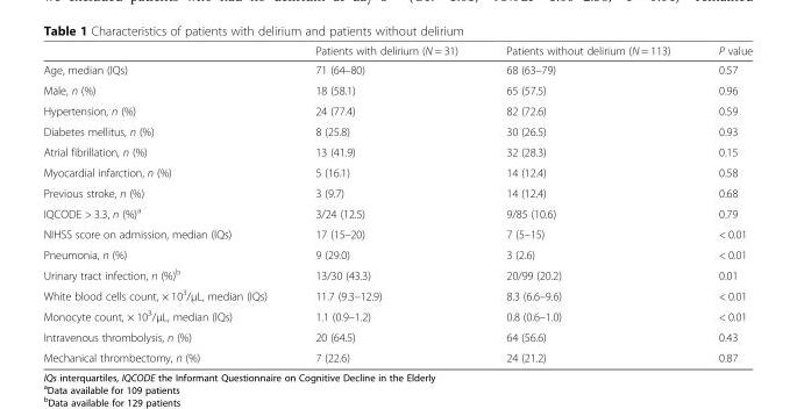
<table><thead><tr><td></td><td>Patients with delirium (N = 31)</td><td>Patients without delirium (N = 113)</td><td>P value</td></tr></thead><tbody><tr><td>Age, median (IQs)</td><td>71 (64–80)</td><td>68 (63–79)</td><td>0.57</td></tr><tr><td>Male, n (%)</td><td>18 (58.1)</td><td>65 (57.5)</td><td>0.96</td></tr><tr><td>Hypertension, n (%)</td><td>24 (77.4)</td><td>82 (72.6)</td><td>0.59</td></tr><tr><td>Diabetes mellitus, n (%)</td><td>8 (25.8)</td><td>30 (26.5)</td><td>0.93</td></tr><tr><td>Atrial fibrillation, n (%)</td><td>13 (41.9)</td><td>32 (28.3)</td><td>0.15</td></tr><tr><td>Myocardial infarction, n (%)</td><td>5 (16.1)</td><td>14 (12.4)</td><td>0.58</td></tr><tr><td>Previous stroke, n (%)</td><td>3 (9.7)</td><td>14 (12.4)</td><td>0.68</td></tr><tr><td>IQCODE &gt; 3.3, n (%)<sup>a</sup></td><td>3/24 (12.5)</td><td>9/85 (10.6)</td><td>0.79</td></tr><tr><td>NIHSS score on admission, median (IQs)</td><td>17 (15–20)</td><td>7 (5–15)</td><td>&lt; 0.01</td></tr><tr><td>Pneumonia, n (%)</td><td>9 (29.0)</td><td>3 (2.6)</td><td>&lt; 0.01</td></tr><tr><td>Urinary tract infection, n (%)<sup>b</sup></td><td>13/30 (43.3)</td><td>20/99 (20.2)</td><td>0.01</td></tr><tr><td>White blood cells count, × 10<sup>3</sup>/μL, median (IQs)</td><td>11.7 (9.3–12.9)</td><td>8.3 (6.6–9.6)</td><td>&lt; 0.01</td></tr><tr><td>Monocyte count, × 10<sup>3</sup>/μL, median (IQs)</td><td>1.1 (0.9–1.2)</td><td>0.8 (0.6–1.0)</td><td>&lt; 0.01</td></tr><tr><td>Intravenous thrombolysis, n (%)</td><td>20 (64.5)</td><td>64 (56.6)</td><td>0.43</td></tr><tr><td>Mechanical thrombectomy, n (%)</td><td>7 (22.6)</td><td>24 (21.2)</td><td>0.87</td></tr></tbody></table>